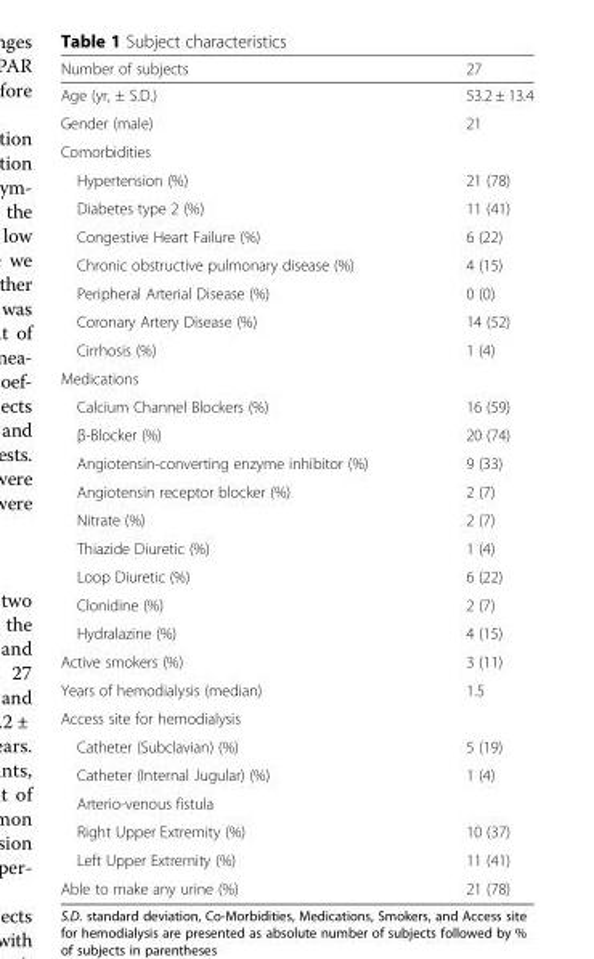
<table><thead><tr><td>Number of subjects</td><td>27</td></tr></thead><tbody><tr><td>Age (yr, ± S.D.)</td><td>53.2 ± 13.4</td></tr><tr><td>Gender (male)</td><td>21</td></tr><tr><td colspan="2">Comorbidities</td></tr><tr><td>Hypertension (%)</td><td>21 (78)</td></tr><tr><td>Diabetes type 2 (%)</td><td>11 (41)</td></tr><tr><td>Congestive Heart Failure (%)</td><td>6 (22)</td></tr><tr><td>Chronic obstructive pulmonary disease (%)</td><td>4 (15)</td></tr><tr><td>Peripheral Arterial Disease (%)</td><td>0 (0)</td></tr><tr><td>Coronary Artery Disease (%)</td><td>14 (52)</td></tr><tr><td>Cirrhosis (%)</td><td>1 (4)</td></tr><tr><td colspan="2">Medications</td></tr><tr><td>Calcium Channel Blockers (%)</td><td>16 (59)</td></tr><tr><td>β-Blocker (%)</td><td>20 (74)</td></tr><tr><td>Angiotensin-converting enzyme inhibitor (%)</td><td>9 (33)</td></tr><tr><td>Angiotensin receptor blocker (%)</td><td>2 (7)</td></tr><tr><td>Nitrate (%)</td><td>2 (7)</td></tr><tr><td>Thiazide Diuretic (%)</td><td>1 (4)</td></tr><tr><td>Loop Diuretic (%)</td><td>6 (22)</td></tr><tr><td>Clonidine (%)</td><td>2 (7)</td></tr><tr><td>Hydralazine (%)</td><td>4 (15)</td></tr><tr><td>Active smokers (%)</td><td>3 (11)</td></tr><tr><td>Years of hemodialysis (median)</td><td>1.5</td></tr><tr><td colspan="2">Access site for hemodialysis</td></tr><tr><td>Catheter (Subclavian) (%)</td><td>5 (19)</td></tr><tr><td>Catheter (Internal Jugular) (%)</td><td>1 (4)</td></tr><tr><td colspan="2">Arterio-venous fistula</td></tr><tr><td>Right Upper Extremity (%)</td><td>10 (37)</td></tr><tr><td>Left Upper Extremity (%)</td><td>11 (41)</td></tr><tr><td>Able to make any urine (%)</td><td>21 (78)</td></tr></tbody></table>